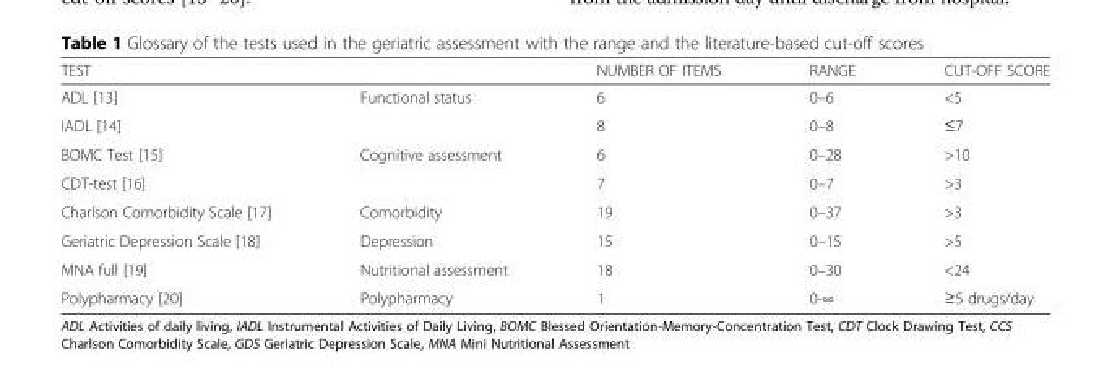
<table><thead><tr><td>TEST</td><td></td><td>NUMBER OF ITEMS</td><td>RANGE</td><td>CUT-OFF SCORE</td></tr></thead><tbody><tr><td>ADL [13]</td><td rowspan="2">Functional status</td><td>6</td><td>0–6</td><td>&lt;5</td></tr><tr><td>IADL [14]</td><td>8</td><td>0–8</td><td>≤7</td></tr><tr><td>BOMC Test [15]</td><td rowspan="2">Cognitive assessment</td><td>6</td><td>0–28</td><td>&gt;10</td></tr><tr><td>CDT-test [16]</td><td>7</td><td>0–7</td><td>&gt;3</td></tr><tr><td>Charlson Comorbidity Scale [17]</td><td>Comorbidity</td><td>19</td><td>0–37</td><td>&gt;3</td></tr><tr><td>Geriatric Depression Scale [18]</td><td>Depression</td><td>15</td><td>0–15</td><td>&gt;5</td></tr><tr><td>MNA full [19]</td><td>Nutritional assessment</td><td>18</td><td>0–30</td><td>&lt;24</td></tr><tr><td>Polypharmacy [20]</td><td>Polypharmacy</td><td>1</td><td>0-∞</td><td>≥5 drugs/day</td></tr></tbody></table>